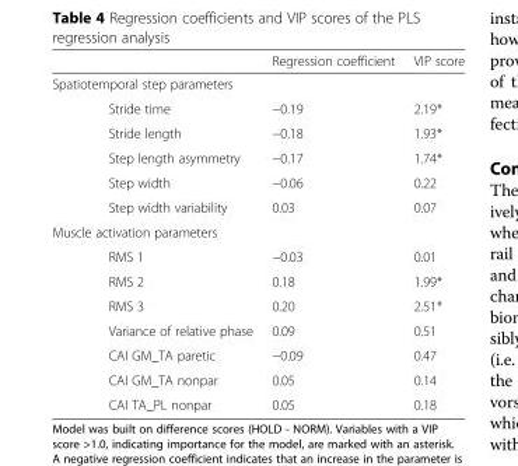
<table><thead><tr><td></td><td>Regression coefficient</td><td>VIP score</td></tr></thead><tbody><tr><td colspan="3">Spatiotemporal step parameters</td></tr><tr><td>Stride time</td><td>−0.19</td><td>2.19*</td></tr><tr><td>Stride length</td><td>−0.18</td><td>1.93*</td></tr><tr><td>Step length asymmetry</td><td>−0.17</td><td>1.74*</td></tr><tr><td>Step width</td><td>−0.06</td><td>0.22</td></tr><tr><td>Step width variability</td><td>0.03</td><td>0.07</td></tr><tr><td colspan="3">Muscle activation parameters</td></tr><tr><td>RMS 1</td><td>−0.03</td><td>0.01</td></tr><tr><td>RMS 2</td><td>0.18</td><td>1.99*</td></tr><tr><td>RMS 3</td><td>0.20</td><td>2.51*</td></tr><tr><td>Variance of relative phase</td><td>0.09</td><td>0.51</td></tr><tr><td>CAI GM_TA paretic</td><td>−0.09</td><td>0.47</td></tr><tr><td>CAI GM_TA nonpar</td><td>0.05</td><td>0.14</td></tr><tr><td>CAI TA_PL nonpar</td><td>0.05</td><td>0.18</td></tr></tbody></table>